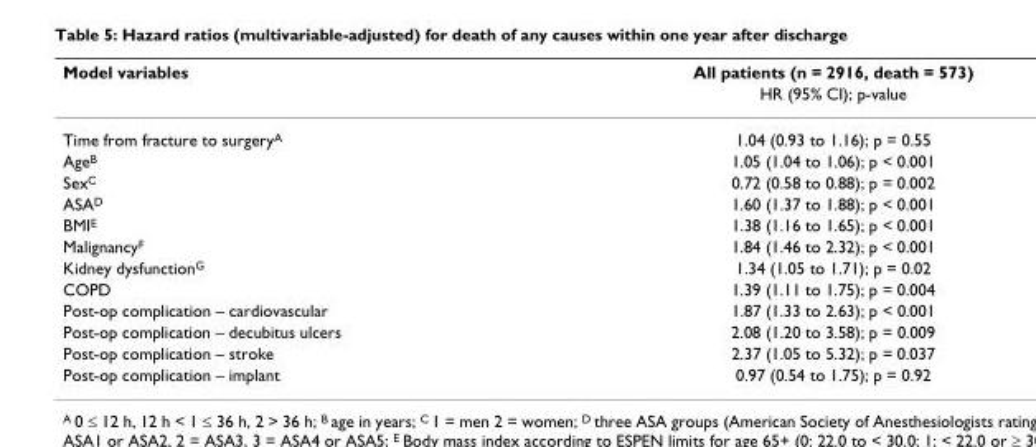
<table><thead><tr><td rowspan="2">Model variables</td><td rowspan="2">All patients (n = 2916, death = 573) HR (95% CI); p-value</td></tr><tr></tr></thead><tbody><tr><td>Time from fracture to surgery<sup>A</sup></td><td>1.04 (0.93 to 1.16); p = 0.55</td></tr><tr><td>Age<sup>B</sup></td><td>1.05 (1.04 to 1.06); p &lt; 0.001</td></tr><tr><td>Sex<sup>C</sup></td><td>0.72 (0.58 to 0.88); p = 0.002</td></tr><tr><td>ASA<sup>D</sup></td><td>1.60 (1.37 to 1.88); p &lt; 0.001</td></tr><tr><td>BMI<sup>E</sup></td><td>1.38 (1.16 to 1.65); p &lt; 0.001</td></tr><tr><td>Malignancy<sup>F</sup></td><td>1.84 (1.46 to 2.32); p &lt; 0.001</td></tr><tr><td>Kidney dysfunction<sup>G</sup></td><td>1.34 (1.05 to 1.71); p = 0.02</td></tr><tr><td>COPD</td><td>1.39 (1.11 to 1.75); p = 0.004</td></tr><tr><td>Post-op complication – cardiovascular</td><td>1.87 (1.33 to 2.63); p &lt; 0.001</td></tr><tr><td>Post-op complication – decubitus ulcers</td><td>2.08 (1.20 to 3.58); p = 0.009</td></tr><tr><td>Post-op complication – stroke</td><td>2.37 (1.05 to 5.32); p = 0.037</td></tr><tr><td>Post-op complication – implant</td><td>0.97 (0.54 to 1.75); p = 0.92</td></tr></tbody></table>